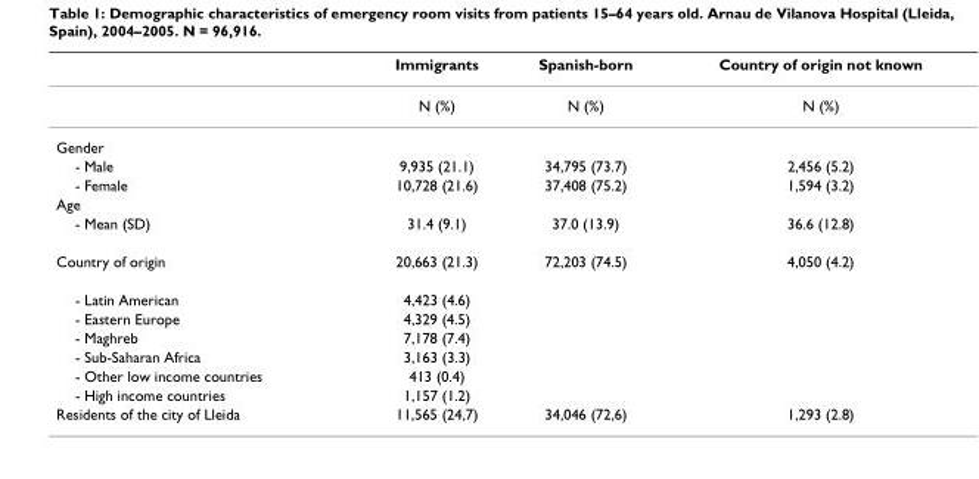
<table><thead><tr><td></td><td>Immigrants</td><td>Spanish-born</td><td>Country of origin not known</td></tr></thead><tbody><tr><td></td><td>N (%)</td><td>N (%)</td><td>N (%)</td></tr><tr><td colspan="4">Gender</td></tr><tr><td>- Male</td><td>9,935 (21.1)</td><td>34,795 (73.7)</td><td>2,456 (5.2)</td></tr><tr><td>- Female</td><td>10,728 (21.6)</td><td>37,408 (75.2)</td><td>1,594 (3.2)</td></tr><tr><td colspan="4">Age</td></tr><tr><td>- Mean (SD)</td><td>31.4 (9.1)</td><td>37.0 (13.9)</td><td>36.6 (12.8)</td></tr><tr><td>Country of origin</td><td>20,663 (21.3)</td><td>72,203 (74.5)</td><td>4,050 (4.2)</td></tr><tr><td>- Latin American</td><td>4,423 (4.6)</td><td></td><td></td></tr><tr><td>- Eastern Europe</td><td>4,329 (4.5)</td><td></td><td></td></tr><tr><td>- Maghreb</td><td>7,178 (7.4)</td><td></td><td></td></tr><tr><td>- Sub-Saharan Africa</td><td>3,163 (3.3)</td><td></td><td></td></tr><tr><td>- Other low income countries</td><td>413 (0.4)</td><td></td><td></td></tr><tr><td>- High income countries</td><td>1,157 (1.2)</td><td></td><td></td></tr><tr><td>Residents of the city of Lleida</td><td>11,565 (24,7)</td><td>34,046 (72,6)</td><td>1,293 (2.8)</td></tr></tbody></table>